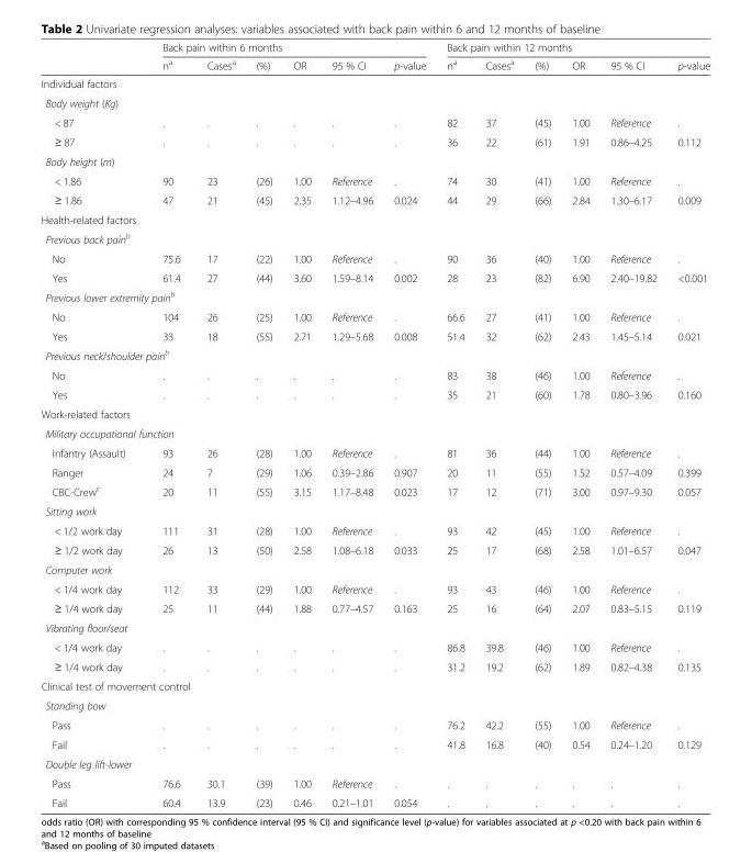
<table><thead><tr><td rowspan="2"></td><td colspan="6">Back pain within 6 months</td><td colspan="6">Back pain within 12 months</td></tr><tr><td>n<sup>a</sup></td><td>Cases<sup>a</sup></td><td>(%)</td><td>OR</td><td>95 % CI</td><td>p-value</td><td>n<sup>a</sup></td><td>Cases<sup>a</sup></td><td>(%)</td><td>OR</td><td>95 % CI</td><td>p-value</td></tr></thead><tbody><tr><td colspan="13">Individual factors</td></tr><tr><td colspan="13">Body weight (Kg)</td></tr><tr><td>&lt; 87</td><td>.</td><td>.</td><td>.</td><td>.</td><td>.</td><td>.</td><td>82</td><td>37</td><td>(45)</td><td>1.00</td><td>Reference</td><td>.</td></tr><tr><td>≥ 87</td><td>.</td><td>.</td><td>.</td><td>.</td><td>.</td><td>.</td><td>36</td><td>22</td><td>(61)</td><td>1.91</td><td>0.86–4.25</td><td>0.112</td></tr><tr><td colspan="13">Body height (m)</td></tr><tr><td>&lt; 1.86</td><td>90</td><td>23</td><td>(26)</td><td>1.00</td><td>Reference</td><td>.</td><td>74</td><td>30</td><td>(41)</td><td>1.00</td><td>Reference</td><td>.</td></tr><tr><td>≥ 1.86</td><td>47</td><td>21</td><td>(45)</td><td>2.35</td><td>1.12–4.96</td><td>0.024</td><td>44</td><td>29</td><td>(66)</td><td>2.84</td><td>1.30–6.17</td><td>0.009</td></tr><tr><td colspan="13">Health-related factors</td></tr><tr><td colspan="13">Previous back pain<sup>b</sup></td></tr><tr><td>No</td><td>75.6</td><td>17</td><td>(22)</td><td>1.00</td><td>Reference</td><td>.</td><td>90</td><td>36</td><td>(40)</td><td>1.00</td><td>Reference</td><td>.</td></tr><tr><td>Yes</td><td>61.4</td><td>27</td><td>(44)</td><td>3.60</td><td>1.59–8.14</td><td>0.002</td><td>28</td><td>23</td><td>(82)</td><td>6.90</td><td>2.40–19.82</td><td>&lt;0.001</td></tr><tr><td colspan="13">Previous lower extremity pain<sup>b</sup></td></tr><tr><td>No</td><td>104</td><td>26</td><td>(25)</td><td>1.00</td><td>Reference</td><td>.</td><td>66.6</td><td>27</td><td>(41)</td><td>1.00</td><td>Reference</td><td>.</td></tr><tr><td>Yes</td><td>33</td><td>18</td><td>(55)</td><td>2.71</td><td>1.29–5.68</td><td>0.008</td><td>51.4</td><td>32</td><td>(62)</td><td>2.43</td><td>1.45–5.14</td><td>0.021</td></tr><tr><td colspan="13">Previous neck/shoulder pain<sup>b</sup></td></tr><tr><td>No</td><td>.</td><td>.</td><td>.</td><td>.</td><td>.</td><td>.</td><td>83</td><td>38</td><td>(46)</td><td>1.00</td><td>Reference</td><td>.</td></tr><tr><td>Yes</td><td>.</td><td>.</td><td>.</td><td>.</td><td>.</td><td>.</td><td>35</td><td>21</td><td>(60)</td><td>1.78</td><td>0.80–3.96</td><td>0.160</td></tr><tr><td colspan="13">Work-related factors</td></tr><tr><td colspan="13">Military occupational function</td></tr><tr><td>Infantry (Assault)</td><td>93</td><td>26</td><td>(28)</td><td>1.00</td><td>Reference</td><td>.</td><td>81</td><td>36</td><td>(44)</td><td>1.00</td><td>Reference</td><td>.</td></tr><tr><td>Ranger</td><td>24</td><td>7</td><td>(29)</td><td>1.06</td><td>0.39–2.86</td><td>0.907</td><td>20</td><td>11</td><td>(55)</td><td>1.52</td><td>0.57–4.09</td><td>0.399</td></tr><tr><td>CBC-Crew<sup>c</sup></td><td>20</td><td>11</td><td>(55)</td><td>3.15</td><td>1.17–8.48</td><td>0.023</td><td>17</td><td>12</td><td>(71)</td><td>3.00</td><td>0.97–9.30</td><td>0.057</td></tr><tr><td colspan="13">Sitting work</td></tr><tr><td>&lt; 1/2 work day</td><td>111</td><td>31</td><td>(28)</td><td>1.00</td><td>Reference</td><td>.</td><td>93</td><td>42</td><td>(45)</td><td>1.00</td><td>Reference</td><td>.</td></tr><tr><td>≥ 1/2 work day</td><td>26</td><td>13</td><td>(50)</td><td>2.58</td><td>1.08–6.18</td><td>0.033</td><td>25</td><td>17</td><td>(68)</td><td>2.58</td><td>1.01–6.57</td><td>0.047</td></tr><tr><td colspan="13">Computer work</td></tr><tr><td>&lt; 1/4 work day</td><td>112</td><td>33</td><td>(29)</td><td>1.00</td><td>Reference</td><td>.</td><td>93</td><td>43</td><td>(46)</td><td>1.00</td><td>Reference</td><td>.</td></tr><tr><td>≥ 1/4 work day</td><td>25</td><td>11</td><td>(44)</td><td>1.88</td><td>0.77–4.57</td><td>0.163</td><td>25</td><td>16</td><td>(64)</td><td>2.07</td><td>0.83–5.15</td><td>0.119</td></tr><tr><td colspan="13">Vibrating floor/seat</td></tr><tr><td>&lt; 1/4 work day</td><td>.</td><td>.</td><td>.</td><td>.</td><td>.</td><td>.</td><td>86.8</td><td>39.8</td><td>(46)</td><td>1.00</td><td>Reference</td><td>.</td></tr><tr><td>≥ 1/4 work day</td><td>.</td><td>.</td><td>.</td><td>.</td><td>.</td><td>.</td><td>31.2</td><td>19.2</td><td>(62)</td><td>1.89</td><td>0.82–4.38</td><td>0.135</td></tr><tr><td colspan="13">Clinical test of movement control</td></tr><tr><td colspan="13">Standing bow</td></tr><tr><td>Pass</td><td>.</td><td>.</td><td>.</td><td>.</td><td>.</td><td>.</td><td>76.2</td><td>42.2</td><td>(55)</td><td>1.00</td><td>Reference</td><td>.</td></tr><tr><td>Fail</td><td>.</td><td>.</td><td>.</td><td>.</td><td>.</td><td>.</td><td>41.8</td><td>16.8</td><td>(40)</td><td>0.54</td><td>0.24–1.20</td><td>0.129</td></tr><tr><td colspan="13">Double leg lift-lower</td></tr><tr><td>Pass</td><td>76.6</td><td>30.1</td><td>(39)</td><td>1.00</td><td>Reference</td><td>.</td><td>.</td><td>.</td><td>.</td><td>.</td><td>.</td><td>.</td></tr><tr><td>Fail</td><td>60.4</td><td>13.9</td><td>(23)</td><td>0.46</td><td>0.21–1.01</td><td>0.054</td><td>.</td><td>.</td><td>.</td><td>.</td><td>.</td><td>.</td></tr></tbody></table>